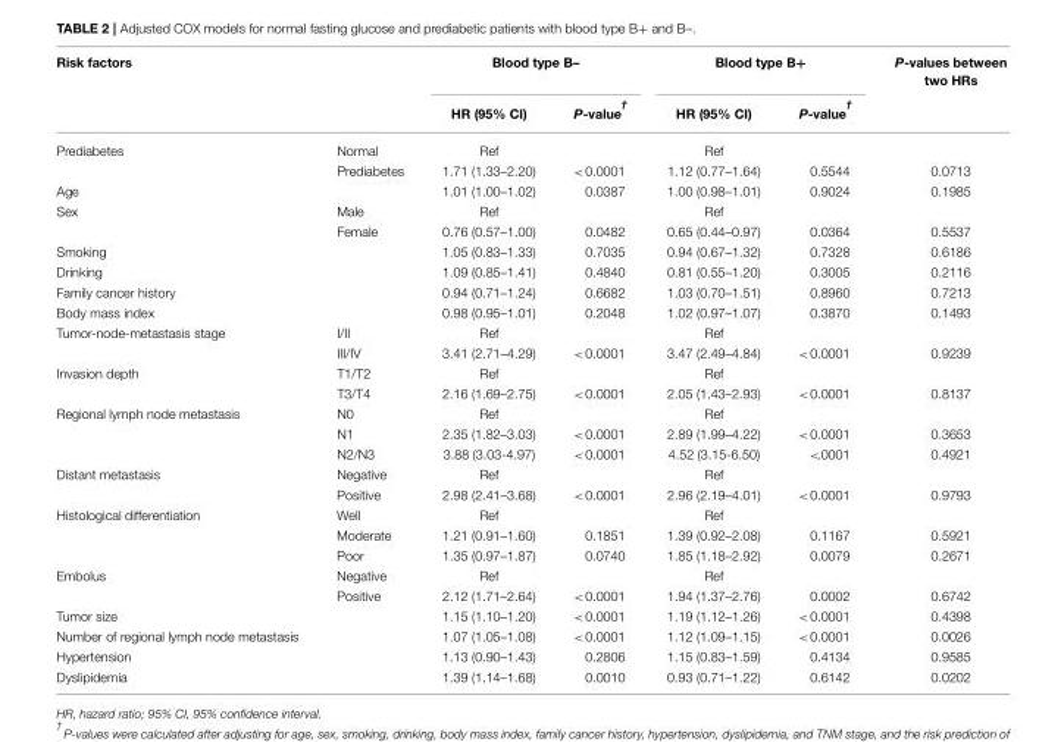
<table><thead><tr><td colspan="2">Risk factors</td><td colspan="2">Blood type B–</td><td colspan="2">Blood type B+</td><td rowspan="2">P-values between two HRs</td></tr><tr><td></td><td></td><td>HR (95% CI)</td><td>P-value <sup>†</sup></td><td>HR (95% CI)</td><td>P-value <sup>†</sup></td></tr></thead><tbody><tr><td rowspan="2">Prediabetes</td><td>Normal</td><td>Ref</td><td></td><td>Ref</td><td></td><td></td></tr><tr><td>Prediabetes</td><td>1.71 (1.33–2.20)</td><td>&lt;0.0001</td><td>1.12 (0.77–1.64)</td><td>0.5544</td><td>0.0713</td></tr><tr><td>Age</td><td></td><td>1.01 (1.00–1.02)</td><td>0.0387</td><td>1.00 (0.98–1.01)</td><td>0.9024</td><td>0.1985</td></tr><tr><td rowspan="2">Sex</td><td>Male</td><td>Ref</td><td></td><td>Ref</td><td></td><td></td></tr><tr><td>Female</td><td>0.76 (0.57–1.00)</td><td>0.0482</td><td>0.65 (0.44–0.97)</td><td>0.0364</td><td>0.5537</td></tr><tr><td>Smoking</td><td></td><td>1.05 (0.83–1.33)</td><td>0.7035</td><td>0.94 (0.67–1.32)</td><td>0.7328</td><td>0.6186</td></tr><tr><td>Drinking</td><td></td><td>1.09 (0.85–1.41)</td><td>0.4840</td><td>0.81 (0.55–1.20)</td><td>0.3005</td><td>0.2116</td></tr><tr><td>Family cancer history</td><td></td><td>0.94 (0.71–1.24)</td><td>0.6682</td><td>1.03 (0.70–1.51)</td><td>0.8960</td><td>0.7213</td></tr><tr><td>Body mass index</td><td></td><td>0.98 (0.95–1.01)</td><td>0.2048</td><td>1.02 (0.97–1.07)</td><td>0.3870</td><td>0.1493</td></tr><tr><td rowspan="2">Tumor-node-metastasis stage</td><td>I/II</td><td>Ref</td><td></td><td>Ref</td><td></td><td></td></tr><tr><td>III/IV</td><td>3.41 (2.71–4.29)</td><td>&lt;0.0001</td><td>3.47 (2.49–4.84)</td><td>&lt;0.0001</td><td>0.9239</td></tr><tr><td rowspan="2">Invasion depth</td><td>T1/T2</td><td>Ref</td><td></td><td>Ref</td><td></td><td></td></tr><tr><td>T3/T4</td><td>2.16 (1.69–2.75)</td><td>&lt;0.0001</td><td>2.05 (1.43–2.93)</td><td>&lt;0.0001</td><td>0.8137</td></tr><tr><td rowspan="3">Regional lymph node metastasis</td><td>N0</td><td>Ref</td><td></td><td>Ref</td><td></td><td></td></tr><tr><td>N1</td><td>2.35 (1.82–3.03)</td><td>&lt;0.0001</td><td>2.89 (1.99–4.22)</td><td>&lt;0.0001</td><td>0.3653</td></tr><tr><td>N2/N3</td><td>3.88 (3.03-4.97)</td><td>&lt;0.0001</td><td>4.52 (3.15-6.50)</td><td>&lt;.0001</td><td>0.4921</td></tr><tr><td rowspan="2">Distant metastasis</td><td>Negative</td><td>Ref</td><td></td><td>Ref</td><td></td><td></td></tr><tr><td>Positive</td><td>2.98 (2.41–3.68)</td><td>&lt;0.0001</td><td>2.96 (2.19–4.01)</td><td>&lt;0.0001</td><td>0.9793</td></tr><tr><td rowspan="3">Histological differentiation</td><td>Well</td><td>Ref</td><td></td><td>Ref</td><td></td><td></td></tr><tr><td>Moderate</td><td>1.21 (0.91–1.60)</td><td>0.1851</td><td>1.39 (0.92–2.08)</td><td>0.1167</td><td>0.5921</td></tr><tr><td>Poor</td><td>1.35 (0.97–1.87)</td><td>0.0740</td><td>1.85 (1.18–2.92)</td><td>0.0079</td><td>0.2671</td></tr><tr><td rowspan="2">Embolus</td><td>Negative</td><td>Ref</td><td></td><td>Ref</td><td></td><td></td></tr><tr><td>Positive</td><td>2.12 (1.71–2.64)</td><td>&lt;0.0001</td><td>1.94 (1.37–2.76)</td><td>0.0002</td><td>0.6742</td></tr><tr><td>Tumor size</td><td></td><td>1.15 (1.10–1.20)</td><td>&lt;0.0001</td><td>1.19 (1.12–1.26)</td><td>&lt;0.0001</td><td>0.4398</td></tr><tr><td>Number of regional lymph node metastasis</td><td></td><td>1.07 (1.05–1.08)</td><td>&lt;0.0001</td><td>1.12 (1.09–1.15)</td><td>&lt;0.0001</td><td>0.0026</td></tr><tr><td>Hypertension</td><td></td><td>1.13 (0.90–1.43)</td><td>0.2806</td><td>1.15 (0.83–1.59)</td><td>0.4134</td><td>0.9585</td></tr><tr><td>Dyslipidemia</td><td></td><td>1.39 (1.14–1.68)</td><td>0.0010</td><td>0.93 (0.71–1.22)</td><td>0.6142</td><td>0.0202</td></tr></tbody></table>